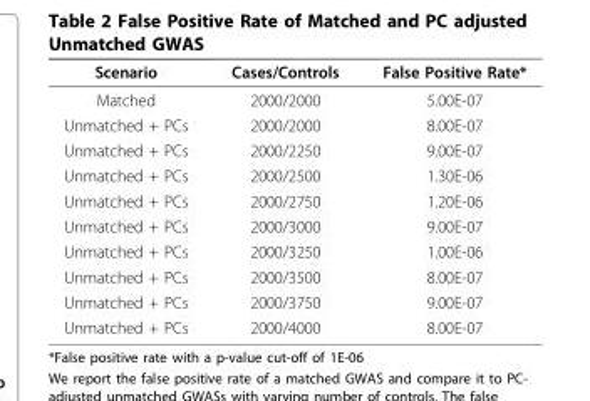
<table><thead><tr><td>Scenario</td><td>Cases/Controls</td><td>False Positive Rate*</td></tr></thead><tbody><tr><td>Matched</td><td>2000/2000</td><td>5.00E-07</td></tr><tr><td>Unmatched + PCs</td><td>2000/2000</td><td>8.00E-07</td></tr><tr><td>Unmatched + PCs</td><td>2000/2250</td><td>9.00E-07</td></tr><tr><td>Unmatched + PCs</td><td>2000/2500</td><td>1.30E-06</td></tr><tr><td>Unmatched + PCs</td><td>2000/2750</td><td>1.20E-06</td></tr><tr><td>Unmatched + PCs</td><td>2000/3000</td><td>9.00E-07</td></tr><tr><td>Unmatched + PCs</td><td>2000/3250</td><td>1.00E-06</td></tr><tr><td>Unmatched + PCs</td><td>2000/3500</td><td>8.00E-07</td></tr><tr><td>Unmatched + PCs</td><td>2000/3750</td><td>9.00E-07</td></tr><tr><td>Unmatched + PCs</td><td>2000/4000</td><td>8.00E-07</td></tr></tbody></table>